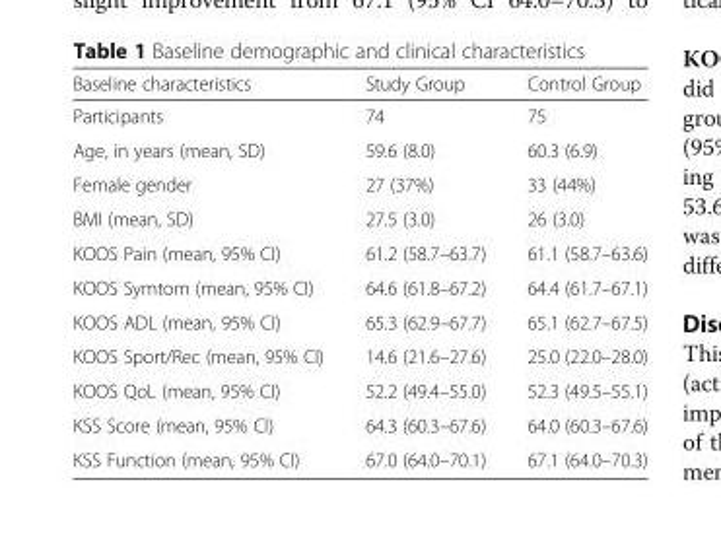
<table><thead><tr><td>Baseline characteristics</td><td>Study Group</td><td>Control Group</td></tr></thead><tbody><tr><td>Participants</td><td>74</td><td>75</td></tr><tr><td>Age, in years (mean, SD)</td><td>59.6 (8.0)</td><td>60.3 (6.9)</td></tr><tr><td>Female gender</td><td>27 (37%)</td><td>33 (44%)</td></tr><tr><td>BMI (mean, SD)</td><td>27.5 (3.0)</td><td>26 (3.0)</td></tr><tr><td>KOOS Pain (mean, 95% CI)</td><td>61.2 (58.7–63.7)</td><td>61.1 (58.7–63.6)</td></tr><tr><td>KOOS Symtom (mean, 95% CI)</td><td>64.6 (61.8–67.2)</td><td>64.4 (61.7–67.1)</td></tr><tr><td>KOOS ADL (mean, 95% CI)</td><td>65.3 (62.9–67.7)</td><td>65.1 (62.7–67.5)</td></tr><tr><td>KOOS Sport/Rec (mean, 95% CI)</td><td>14.6 (21.6–27.6)</td><td>25.0 (22.0–28.0)</td></tr><tr><td>KOOS QoL (mean, 95% CI)</td><td>52.2 (49.4–55.0)</td><td>52.3 (49.5–55.1)</td></tr><tr><td>KSS Score (mean, 95% CI)</td><td>64.3 (60.3–67.6)</td><td>64.0 (60.3–67.6)</td></tr><tr><td>KSS Function (mean, 95% CI)</td><td>67.0 (64.0–70.1)</td><td>67.1 (64.0–70.3)</td></tr></tbody></table>